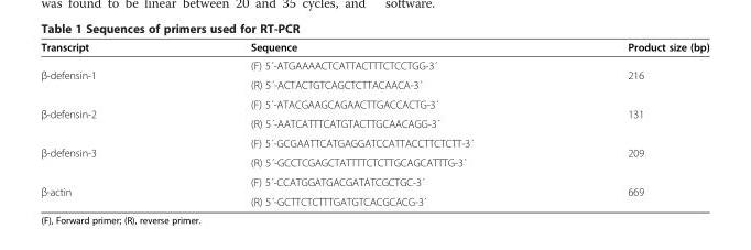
<table><thead><tr><td>Transcript</td><td>Sequence</td><td>Product size (bp)</td></tr></thead><tbody><tr><td rowspan="2">β-defensin-1</td><td>(F) 5´-ATGAAAACTCATTACTTTCTCCTGG-3´</td><td rowspan="2">216</td></tr><tr><td>(R) 5´-ACTACTGTCAGCTCTTACAACA-3´</td></tr><tr><td rowspan="2">β-defensin-2</td><td>(F) 5´-ATACGAAGCAGAACTTGACCACTG-3´</td><td rowspan="2">131</td></tr><tr><td>(R) 5´-AATCATTTCATGTACTTGCAACAGG-3´</td></tr><tr><td rowspan="2">β-defensin-3</td><td>(F) 5´-GCGAATTCATGAGGATCCATTACCTTCTCTT-3´</td><td rowspan="2">209</td></tr><tr><td>(R) 5´-GCCTCGAGCTATTTTCTCTTGCAGCATTTG-3´</td></tr><tr><td rowspan="2">β-actin</td><td>(F) 5´-CCATGGATGACGATATCGCTGC-3´</td><td rowspan="2">669</td></tr><tr><td>(R) 5´-GCTTCTCTTTGATGTCACGCACG-3´</td></tr></tbody></table>